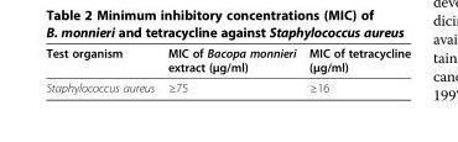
<table><thead><tr><td>Test organism</td><td>MIC of Bacopa monnieri extract (μg/ml)</td><td>MIC of tetracycline (μg/ml)</td></tr></thead><tbody><tr><td>Staphylococcus aureus</td><td>≥75</td><td>≥16</td></tr></tbody></table>